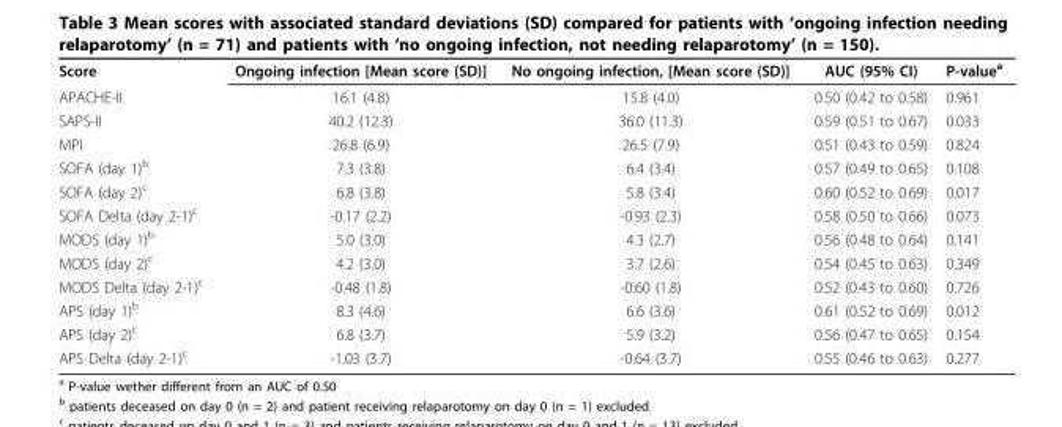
<table><tbody><tr><td>Score</td><td>Ongoing infection [Mean score (SD)]</td><td>No ongoing infection, [Mean score (SD)]</td><td>AUC (95% CI)</td><td>P-value<sup>a</sup></td></tr><tr><td>APACHE-II</td><td>16.1 (4.8)</td><td>15.8 (4.0)</td><td>0.50 (0.42 to 0.58)</td><td>0.961</td></tr><tr><td>SAPS-II</td><td>40.2 (12.3)</td><td>36.0 (11.3)</td><td>0.59 (0.51 to 0.67)</td><td>0.033</td></tr><tr><td>MPI</td><td>26.8 (6.9)</td><td>26.5 (7.9)</td><td>0.51 (0.43 to 0.59)</td><td>0.824</td></tr><tr><td>SOFA (day 1)<sup>b</sup></td><td>7.3 (3.8)</td><td>6.4 (3.4)</td><td>0.57 (0.49 to 0.65)</td><td>0.108</td></tr><tr><td>SOFA (day 2)<sup>c</sup></td><td>6.8 (3.8)</td><td>5.8 (3.4)</td><td>0.60 (0.52 to 0.69)</td><td>0.017</td></tr><tr><td>SOFA Delta (day 2-1)<sup>c</sup></td><td>-0.17 (2.2)</td><td>-0.93 (2.3)</td><td>0.58 (0.50 to 0.66)</td><td>0.073</td></tr><tr><td>MODS (day 1)<sup>b</sup></td><td>5.0 (3.0)</td><td>4.3 (2.7)</td><td>0.56 (0.48 to 0.64)</td><td>0.141</td></tr><tr><td>MODS (day 2)<sup>c</sup></td><td>4.2 (3.0)</td><td>3.7 (2.6)</td><td>0.54 (0.45 to 0.63)</td><td>0.349</td></tr><tr><td>MODS Delta (day 2-1)<sup>c</sup></td><td>-0.48 (1.8)</td><td>-0.60 (1.8)</td><td>0.52 (0.43 to 0.60)</td><td>0.726</td></tr><tr><td>APS (day 1)<sup>b</sup></td><td>8.3 (4.6)</td><td>6.6 (3.6)</td><td>0.61 (0.52 to 0.69)</td><td>0.012</td></tr><tr><td>APS (day 2)<sup>c</sup></td><td>6.8 (3.7)</td><td>5.9 (3.2)</td><td>0.56 (0.47 to 0.65)</td><td>0.154</td></tr><tr><td>APS Delta (day 2-1)<sup>c</sup></td><td>-1.03 (3.7)</td><td>-0.64 (3.7)</td><td>0.55 (0.46 to 0.63)</td><td>0.277</td></tr></tbody></table>